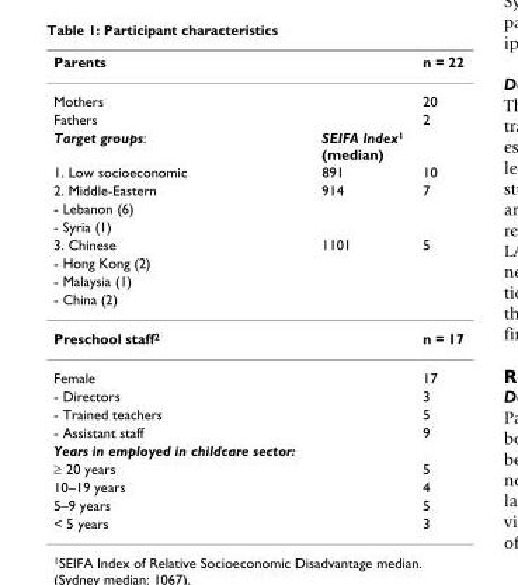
<table><thead><tr><td>Parents</td><td></td><td>n = 22</td></tr></thead><tbody><tr><td>Mothers</td><td></td><td>20</td></tr><tr><td>Fathers</td><td></td><td>2</td></tr><tr><td>Target groups:</td><td>SEIFA Index1 (median)</td><td></td></tr><tr><td>1. Low socioeconomic</td><td>891</td><td>10</td></tr><tr><td>2. Middle-Eastern</td><td>914</td><td>7</td></tr><tr><td colspan="3">- Lebanon (6)</td></tr><tr><td colspan="3">- Syria (1)</td></tr><tr><td>3. Chinese</td><td>1101</td><td>5</td></tr><tr><td colspan="3">- Hong Kong (2)</td></tr><tr><td colspan="3">- Malaysia (1)</td></tr><tr><td colspan="3">- China (2)</td></tr><tr><td>Preschool staff<sup>2</sup></td><td></td><td>n = 17</td></tr><tr><td>Female</td><td></td><td>17</td></tr><tr><td>- Directors</td><td></td><td>3</td></tr><tr><td>- Trained teachers</td><td></td><td>5</td></tr><tr><td>- Assistant staff</td><td></td><td>9</td></tr><tr><td colspan="3">Years in employed in childcare sector:</td></tr><tr><td>≥ 20 years</td><td></td><td>5</td></tr><tr><td>10–19 years</td><td></td><td>4</td></tr><tr><td>5–9 years</td><td></td><td>5</td></tr><tr><td>&lt; 5 years</td><td></td><td>3</td></tr></tbody></table>